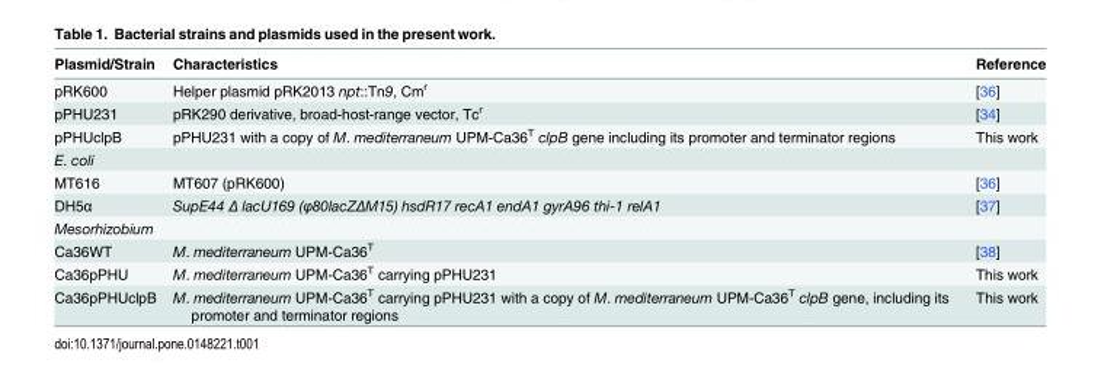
<table><thead><tr><td>Plasmid/Strain</td><td>Characteristics</td><td>Reference</td></tr></thead><tbody><tr><td>pRK600</td><td>Helper plasmid pRK2013 npt::Tn9, Cm<sup>r</sup></td><td>[36]</td></tr><tr><td>pPHU231</td><td>pRK290 derivative, broad-host-range vector, Tc<sup>r</sup></td><td>[34]</td></tr><tr><td>pPHUclpB</td><td>pPHU231 with a copy of M. mediterraneum UPM-Ca36<sup>T</sup> clpB gene including its promoter and terminator regions</td><td>This work</td></tr><tr><td colspan="3">E. coli</td></tr><tr><td>MT616</td><td>MT607 (pRK600)</td><td>[36]</td></tr><tr><td>DH5α</td><td>SupE44 Δ lacU169 (φ80lacZΔM15) hsdR17 recA1 endA1 gyrA96 thi-1 relA1</td><td>[37]</td></tr><tr><td colspan="3">Mesorhizobium</td></tr><tr><td>Ca36WT</td><td>M. mediterraneum UPM-Ca36<sup>T</sup></td><td>[38]</td></tr><tr><td>Ca36pPHU</td><td>M. mediterraneum UPM-Ca36<sup>T</sup> carrying pPHU231</td><td>This work</td></tr><tr><td>Ca36pPHUclpB</td><td>M. mediterraneum UPM-Ca36<sup>T</sup> carrying pPHU231 with a copy of M. mediterraneum UPM-Ca36<sup>T</sup> clpB gene, including its promoter and terminator regions</td><td>This work</td></tr></tbody></table>